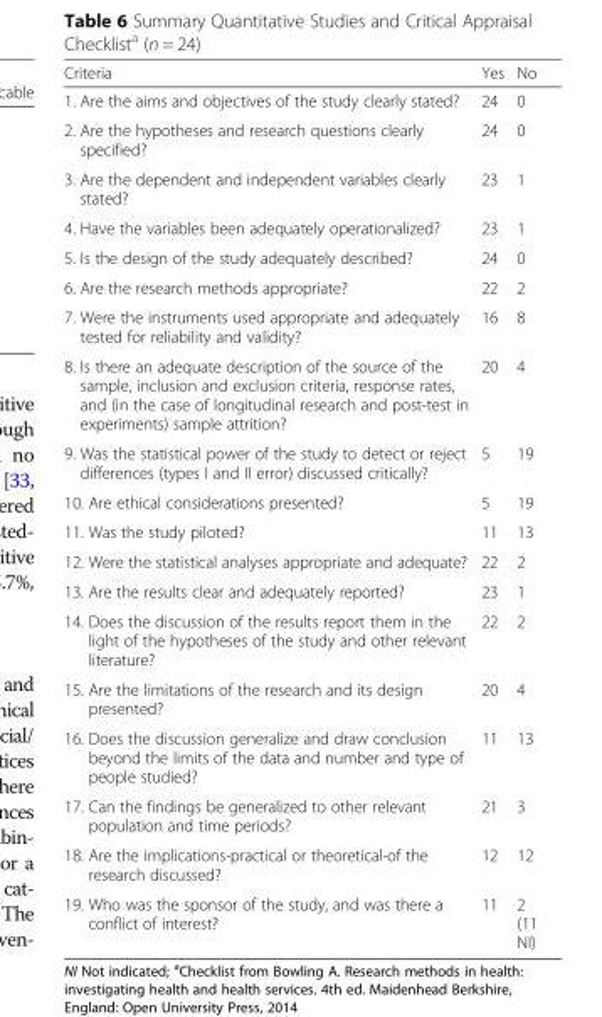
<table><thead><tr><td>Criteria</td><td>Yes</td><td>No</td></tr></thead><tbody><tr><td>1. Are the aims and objectives of the study clearly stated?</td><td>24</td><td>0</td></tr><tr><td>2. Are the hypotheses and research questions clearly specified?</td><td>24</td><td>0</td></tr><tr><td>3. Are the dependent and independent variables clearly stated?</td><td>23</td><td>1</td></tr><tr><td>4. Have the variables been adequately operationalized?</td><td>23</td><td>1</td></tr><tr><td>5. Is the design of the study adequately described?</td><td>24</td><td>0</td></tr><tr><td>6. Are the research methods appropriate?</td><td>22</td><td>2</td></tr><tr><td>7. Were the instruments used appropriate and adequately tested for reliability and validity?</td><td>16</td><td>8</td></tr><tr><td>8. Is there an adequate description of the source of the sample, inclusion and exclusion criteria, response rates, and (in the case of longitudinal research and post-test in experiments) sample attrition?</td><td>20</td><td>4</td></tr><tr><td>9. Was the statistical power of the study to detect or reject differences (types I and II error) discussed critically?</td><td>5</td><td>19</td></tr><tr><td>10. Are ethical considerations presented?</td><td>5</td><td>19</td></tr><tr><td>11. Was the study piloted?</td><td>11</td><td>13</td></tr><tr><td>12. Were the statistical analyses appropriate and adequate?</td><td>22</td><td>2</td></tr><tr><td>13. Are the results clear and adequately reported?</td><td>23</td><td>1</td></tr><tr><td>14. Does the discussion of the results report them in the light of the hypotheses of the study and other relevant literature?</td><td>22</td><td>2</td></tr><tr><td>15. Are the limitations of the research and its design presented?</td><td>20</td><td>4</td></tr><tr><td>16. Does the discussion generalize and draw conclusion beyond the limits of the data and number and type of people studied?</td><td>11</td><td>13</td></tr><tr><td>17. Can the findings be generalized to other relevant population and time periods?</td><td>21</td><td>3</td></tr><tr><td>18. Are the implications-practical or theoretical-of the research discussed?</td><td>12</td><td>12</td></tr><tr><td>19. Who was the sponsor of the study, and was there a conflict of interest?</td><td>11</td><td>2 (11 NI)</td></tr></tbody></table>